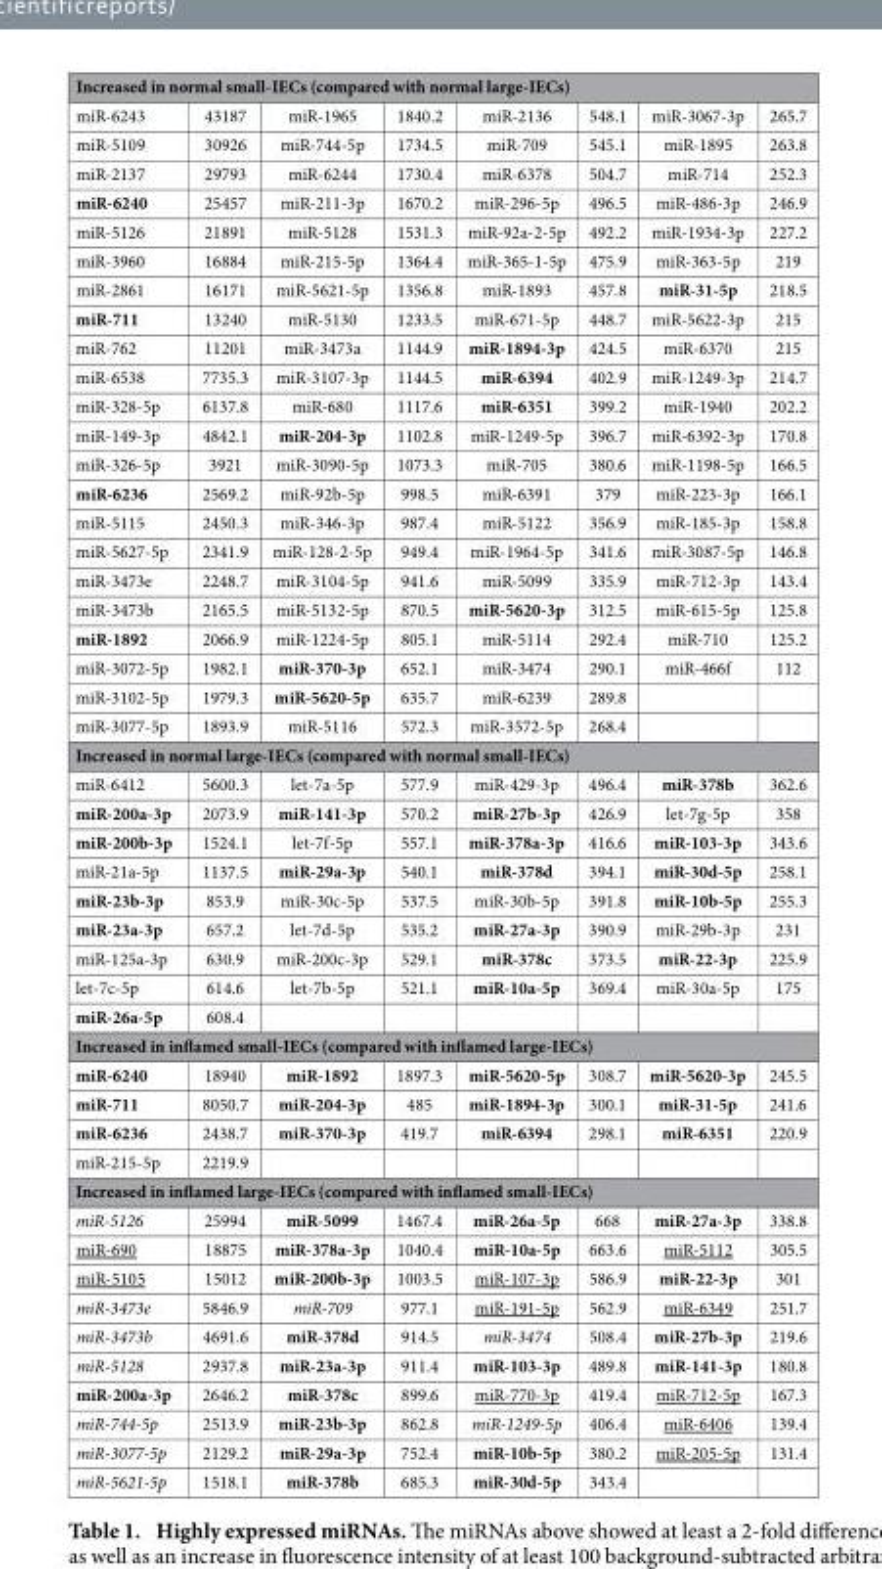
<table><thead><tr><td colspan="8">Increased in normal small-IECs (compared with normal large-IECs)</td></tr><tr><td>miR-6243</td><td>43187</td><td>miR-1965</td><td>1840.2</td><td>miR-2136</td><td>548.1</td><td>miR-3067-3p</td><td>265.7</td></tr></thead><tbody><tr><td>miR-5109</td><td>30926</td><td>miR-744-5p</td><td>1734.5</td><td>miR-709</td><td>545.1</td><td>miR-1895</td><td>263.8</td></tr><tr><td>miR-2137</td><td>29793</td><td>miR-6244</td><td>1730.4</td><td>miR-6378</td><td>504.7</td><td>miR-714</td><td>252.3</td></tr><tr><td>miR-6240</td><td>25457</td><td>miR-211-3p</td><td>1670.2</td><td>miR-296-5p</td><td>496.5</td><td>miR-486-3p</td><td>246.9</td></tr><tr><td>miR-5126</td><td>21891</td><td>miR-5128</td><td>1531.3</td><td>miR-92a-2-5p</td><td>492.2</td><td>miR-1934-3p</td><td>227.2</td></tr><tr><td>miR-3960</td><td>16884</td><td>miR-215-5p</td><td>1364.4</td><td>miR-365-1-5p</td><td>475.9</td><td>miR-363-5p</td><td>219</td></tr><tr><td>miR-2861</td><td>16171</td><td>miR-5621-5p</td><td>1356.8</td><td>miR-1893</td><td>457.8</td><td>miR-31-5p</td><td>218.5</td></tr><tr><td>miR-711</td><td>13240</td><td>miR-5130</td><td>1233.5</td><td>miR-671-5p</td><td>448.7</td><td>miR-5622-3p</td><td>215</td></tr><tr><td>miR-762</td><td>11201</td><td>miR-3473a</td><td>1144.9</td><td>miR-1894-3p</td><td>424.5</td><td>miR-6370</td><td>215</td></tr><tr><td>miR-6538</td><td>7735.3</td><td>miR-3107-3p</td><td>1144.5</td><td>miR-6394</td><td>402.9</td><td>miR-1249-3p</td><td>214.7</td></tr><tr><td>miR-328-5p</td><td>6137.8</td><td>miR-680</td><td>1117.6</td><td>miR-6351</td><td>399.2</td><td>miR-1940</td><td>202.2</td></tr><tr><td>miR-149-3p</td><td>4842.1</td><td>miR-204-3p</td><td>1102.8</td><td>miR-1249-5p</td><td>396.7</td><td>miR-6392-3p</td><td>170.8</td></tr><tr><td>miR-326-5p</td><td>3921</td><td>miR-3090-5p</td><td>1073.3</td><td>miR-705</td><td>380.6</td><td>miR-1198-5p</td><td>166.5</td></tr><tr><td>miR-6236</td><td>2569.2</td><td>miR-92b-5p</td><td>998.5</td><td>miR-6391</td><td>379</td><td>miR-223-3p</td><td>166.1</td></tr><tr><td>miR-5115</td><td>2450.3</td><td>miR-346-3p</td><td>987.4</td><td>miR-5122</td><td>356.9</td><td>miR-185-3p</td><td>158.8</td></tr><tr><td>miR-5627-5p</td><td>2341.9</td><td>miR-128-2-5p</td><td>949.4</td><td>miR-1964-5p</td><td>341.6</td><td>miR-3087-5p</td><td>146.8</td></tr><tr><td>miR-3473e</td><td>2248.7</td><td>miR-3104-5p</td><td>941.6</td><td>miR-5099</td><td>335.9</td><td>miR-712-3p</td><td>143.4</td></tr><tr><td>miR-3473b</td><td>2165.5</td><td>miR-5132-5p</td><td>870.5</td><td>miR-5620-3p</td><td>312.5</td><td>miR-615-5p</td><td>125.8</td></tr><tr><td>miR-1892</td><td>2066.9</td><td>miR-1224-5p</td><td>805.1</td><td>miR-5114</td><td>292.4</td><td>miR-710</td><td>125.2</td></tr><tr><td>miR-3072-5p</td><td>1982.1</td><td>miR-370-3p</td><td>652.1</td><td>miR-3474</td><td>290.1</td><td>miR-466f</td><td>112</td></tr><tr><td>miR-3102-5p</td><td>1979.3</td><td>miR-5620-5p</td><td>635.7</td><td>miR-6239</td><td>289.8</td><td></td><td></td></tr><tr><td>miR-3077-5p</td><td>1893.9</td><td>miR-5116</td><td>572.3</td><td>miR-3572-5p</td><td>268.4</td><td></td><td></td></tr><tr><td colspan="8">Increased in normal large-IECs (compared with normal small-IECs)</td></tr><tr><td>miR-6412</td><td>5600.3</td><td>let-7a-5p</td><td>577.9</td><td>miR-429-3p</td><td>496.4</td><td>miR-378b</td><td>362.6</td></tr><tr><td>miR-200a-3p</td><td>2073.9</td><td>miR-141-3p</td><td>570.2</td><td>miR-27b-3p</td><td>426.9</td><td>let-7g-5p</td><td>358</td></tr><tr><td>miR-200b-3p</td><td>1524.1</td><td>let-7f-5p</td><td>557.1</td><td>miR-378a-3p</td><td>416.6</td><td>miR-103-3p</td><td>343.6</td></tr><tr><td>miR-21a-5p</td><td>1137.5</td><td>miR-29a-3p</td><td>540.1</td><td>miR-378d</td><td>394.1</td><td>miR-30d-5p</td><td>258.1</td></tr><tr><td>miR-23b-3p</td><td>853.9</td><td>miR-30c-5p</td><td>537.5</td><td>miR-30b-5p</td><td>391.8</td><td>miR-10b-5p</td><td>255.3</td></tr><tr><td>miR-23a-3p</td><td>657.2</td><td>let-7d-5p</td><td>535.2</td><td>miR-27a-3p</td><td>390.9</td><td>miR-29b-3p</td><td>231</td></tr><tr><td>miR-125a-3p</td><td>630.9</td><td>miR-200c-3p</td><td>529.1</td><td>miR-378c</td><td>373.5</td><td>miR-22-3p</td><td>225.9</td></tr><tr><td>let-7c-5p</td><td>614.6</td><td>let-7b-5p</td><td>521.1</td><td>miR-10a-5p</td><td>369.4</td><td>miR-30a-5p</td><td>175</td></tr><tr><td>miR-26a-5p</td><td>608.4</td><td></td><td></td><td></td><td></td><td></td><td></td></tr><tr><td colspan="8">Increased in inflamed small-IECs (compared with inflamed large-IECs)</td></tr><tr><td>miR-6240</td><td>18940</td><td>miR-1892</td><td>1897.3</td><td>miR-5620-5p</td><td>308.7</td><td>miR-5620-3p</td><td>245.5</td></tr><tr><td>miR-711</td><td>8050.7</td><td>miR-204-3p</td><td>485</td><td>miR-1894-3p</td><td>300.1</td><td>miR-31-5p</td><td>241.6</td></tr><tr><td>miR-6236</td><td>2438.7</td><td>miR-370-3p</td><td>419.7</td><td>miR-6394</td><td>298.1</td><td>miR-6351</td><td>220.9</td></tr><tr><td>miR-215-5p</td><td>2219.9</td><td></td><td></td><td></td><td></td><td></td><td></td></tr><tr><td colspan="8">Increased in inflamed large-IECs (compared with inflamed small-IECs)</td></tr><tr><td>miR-5126</td><td>25994</td><td>miR-5099</td><td>1467.4</td><td>miR-26a-5p</td><td>668</td><td>miR-27a-3p</td><td>338.8</td></tr><tr><td>miR-690</td><td>18875</td><td>miR-378a-3p</td><td>1040.4</td><td>miR-10a-5p</td><td>663.6</td><td>miR-5112</td><td>305.5</td></tr><tr><td>miR-5105</td><td>15012</td><td>miR-200b-3p</td><td>1003.5</td><td>miR-107-3p</td><td>586.9</td><td>miR-22-3p</td><td>301</td></tr><tr><td>miR-3473e</td><td>5846.9</td><td>miR-709</td><td>977.1</td><td>miR-191-5p</td><td>562.9</td><td>miR-6349</td><td>251.7</td></tr><tr><td>miR-3473b</td><td>4691.6</td><td>miR-378d</td><td>914.5</td><td>miR-3474</td><td>508.4</td><td>miR-27b-3p</td><td>219.6</td></tr><tr><td>miR-5128</td><td>2937.8</td><td>miR-23a-3p</td><td>911.4</td><td>miR-103-3p</td><td>489.8</td><td>miR-141-3p</td><td>180.8</td></tr><tr><td>miR-200a-3p</td><td>2646.2</td><td>miR-378c</td><td>899.6</td><td>miR-770-3p</td><td>419.4</td><td>miR-712-5p</td><td>167.3</td></tr><tr><td>miR-744-5p</td><td>2513.9</td><td>miR-23b-3p</td><td>862.8</td><td>miR-1249-5p</td><td>406.4</td><td>miR-6406</td><td>139.4</td></tr><tr><td>miR-3077-5p</td><td>2129.2</td><td>miR-29a-3p</td><td>752.4</td><td>miR-10b-5p</td><td>380.2</td><td>miR-205-5p</td><td>131.4</td></tr><tr><td>miR-5621-5p</td><td>1518.1</td><td>miR-378b</td><td>685.3</td><td>miR-30d-5p</td><td>343.4</td><td></td><td></td></tr></tbody></table>